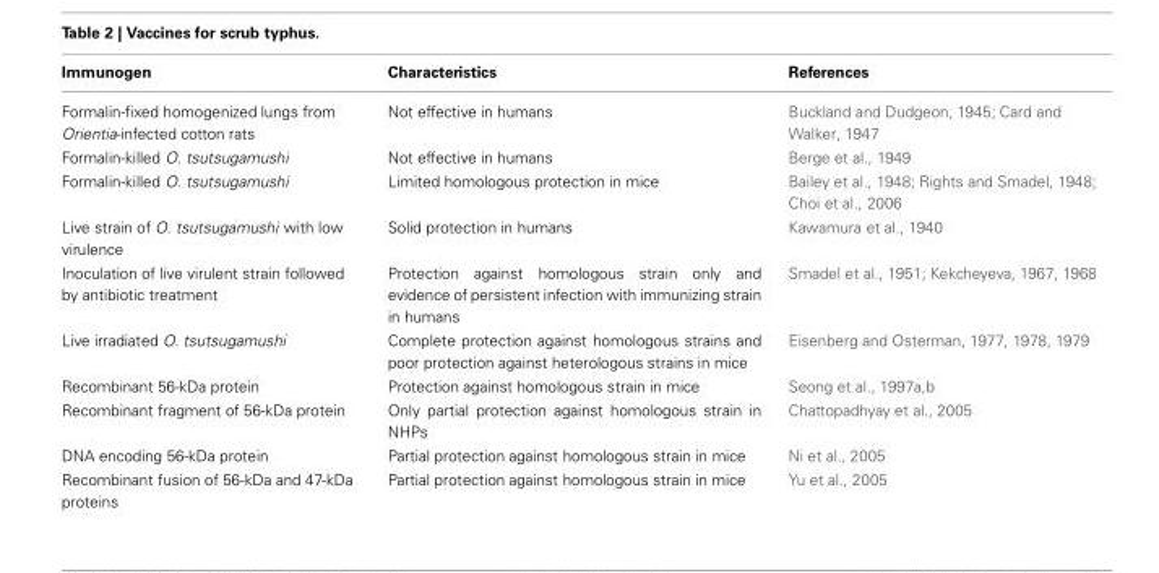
<table><thead><tr><td>Immunogen</td><td>Characteristics</td><td>References</td></tr></thead><tbody><tr><td>Formalin-fixed homogenized lungs from Orientia-infected cotton rats</td><td>Not effective in humans</td><td>Buckland and Dudgeon, 1945; Card and Walker, 1947</td></tr><tr><td>Formalin-killed O. tsutsugamushi</td><td>Not effective in humans</td><td>Berge et al., 1949</td></tr><tr><td>Formalin-killed O. tsutsugamushi</td><td>Limited homologous protection in mice</td><td>Bailey et al., 1948; Rights and Smadel, 1948; Choi et al., 2006</td></tr><tr><td>Live strain of O. tsutsugamushi with low virulence</td><td>Solid protection in humans</td><td>Kawamura et al., 1940</td></tr><tr><td>Inoculation of live virulent strain followed by antibiotic treatment</td><td>Protection against homologous strain only and evidence of persistent infection with immunizing strain in humans</td><td>Smadel et al., 1951; Kekcheyeva, 1967, 1968</td></tr><tr><td>Live irradiated O. tsutsugamushi</td><td>Complete protection against homologous strains and poor protection against heterologous strains in mice</td><td>Eisenberg and Osterman, 1977, 1978, 1979</td></tr><tr><td>Recombinant 56-kDa protein</td><td>Protection against homologous strain in mice</td><td>Seong et al., 1997a,b</td></tr><tr><td>Recombinant fragment of 56-kDa protein</td><td>Only partial protection against homologous strain in NHPs</td><td>Chattopadhyay et al., 2005</td></tr><tr><td>DNA encoding 56-kDa protein</td><td>Partial protection against homologous strain in mice</td><td>Ni et al., 2005</td></tr><tr><td>Recombinant fusion of 56-kDa and 47-kDa proteins</td><td>Partial protection against homologous strain in mice</td><td>Yu et al., 2005</td></tr></tbody></table>